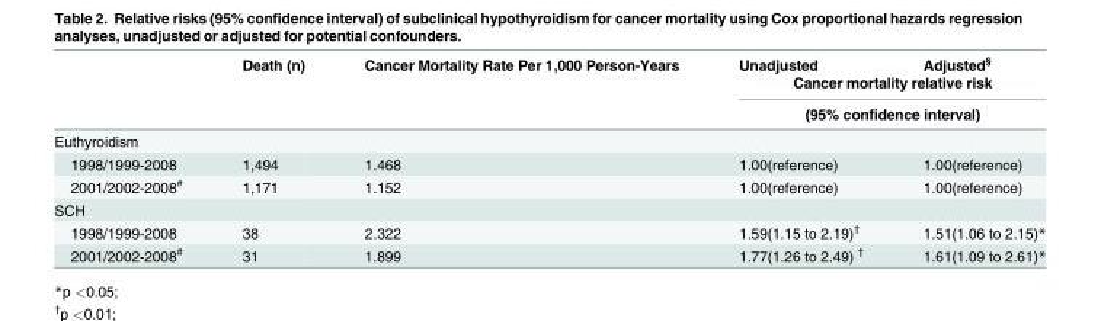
<table><thead><tr><td rowspan="3"></td><td rowspan="3">Death (n)</td><td rowspan="3">Cancer Mortality Rate Per 1,000 Person-Years</td><td>Unadjusted</td><td>Adjusted<sup>§</sup></td></tr><tr><td rowspan="2" colspan="2">Cancer mortality relative risk (95% confidence interval)</td></tr><tr></tr></thead><tbody><tr><td colspan="5">Euthyroidism</td></tr><tr><td>1998/1999-2008</td><td>1,494</td><td>1.468</td><td>1.00(reference)</td><td>1.00(reference)</td></tr><tr><td>2001/2002-2008<sup>#</sup></td><td>1,171</td><td>1.152</td><td>1.00(reference)</td><td>1.00(reference)</td></tr><tr><td colspan="5">SCH</td></tr><tr><td>1998/1999-2008</td><td>38</td><td>2.322</td><td>1.59(1.15 to 2.19)<sup>†</sup></td><td>1.51(1.06 to 2.15)*</td></tr><tr><td>2001/2002-2008<sup>#</sup></td><td>31</td><td>1.899</td><td>1.77(1.26 to 2.49) <sup>†</sup></td><td>1.61(1.09 to 2.61)*</td></tr></tbody></table>